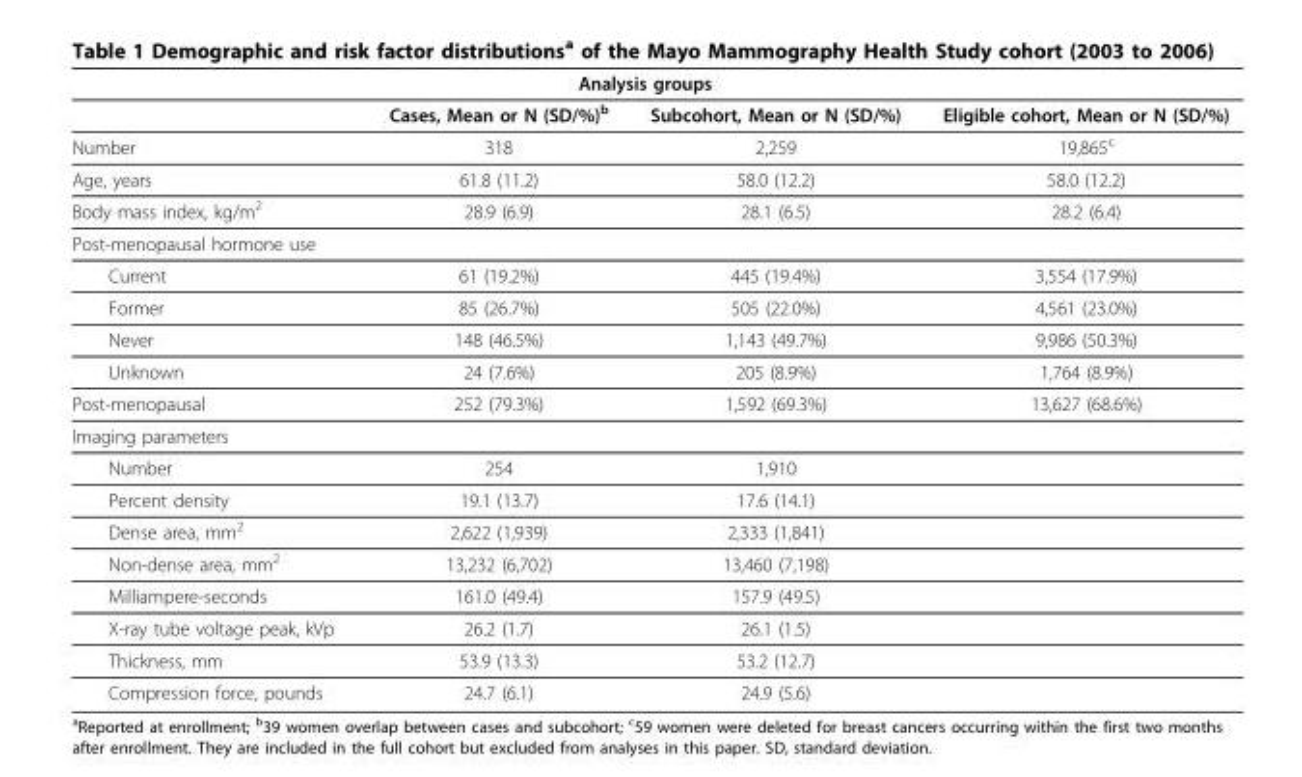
<table><thead><tr><td rowspan="2"></td><td colspan="2">Analysis groups</td><td rowspan="2">Eligible cohort, Mean or N (SD/%)</td></tr><tr><td>Cases, Mean or N (SD/%)<sup>b</sup></td><td>Subcohort, Mean or N (SD/%)</td></tr></thead><tbody><tr><td>Number</td><td>318</td><td>2,259</td><td>19,865<sup>c</sup></td></tr><tr><td>Age, years</td><td>61.8 (11.2)</td><td>58.0 (12.2)</td><td>58.0 (12.2)</td></tr><tr><td>Body mass index, kg/m<sup>2</sup></td><td>28.9 (6.9)</td><td>28.1 (6.5)</td><td>28.2 (6.4)</td></tr><tr><td colspan="4">Post-menopausal hormone use</td></tr><tr><td>Current</td><td>61 (19.2%)</td><td>445 (19.4%)</td><td>3,554 (17.9%)</td></tr><tr><td>Former</td><td>85 (26.7%)</td><td>505 (22.0%)</td><td>4,561 (23.0%)</td></tr><tr><td>Never</td><td>148 (46.5%)</td><td>1,143 (49.7%)</td><td>9,986 (50.3%)</td></tr><tr><td>Unknown</td><td>24 (7.6%)</td><td>205 (8.9%)</td><td>1,764 (8.9%)</td></tr><tr><td>Post-menopausal</td><td>252 (79.3%)</td><td>1,592 (69.3%)</td><td>13,627 (68.6%)</td></tr><tr><td colspan="4">Imaging parameters</td></tr><tr><td>Number</td><td>254</td><td>1,910</td><td></td></tr><tr><td>Percent density</td><td>19.1 (13.7)</td><td>17.6 (14.1)</td><td></td></tr><tr><td>Dense area, mm<sup>2</sup></td><td>2,622 (1,939)</td><td>2,333 (1,841)</td><td></td></tr><tr><td>Non-dense area, mm<sup>2</sup></td><td>13,232 (6,702)</td><td>13,460 (7,198)</td><td></td></tr><tr><td>Milliampere-seconds</td><td>161.0 (49.4)</td><td>157.9 (49.5)</td><td></td></tr><tr><td>X-ray tube voltage peak, kVp</td><td>26.2 (1.7)</td><td>26.1 (1.5)</td><td></td></tr><tr><td>Thickness, mm</td><td>53.9 (13.3)</td><td>53.2 (12.7)</td><td></td></tr><tr><td>Compression force, pounds</td><td>24.7 (6.1)</td><td>24.9 (5.6)</td><td></td></tr></tbody></table>